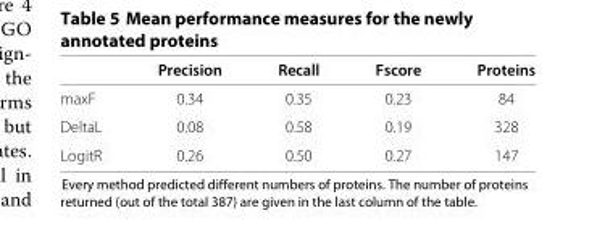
<table><thead><tr><td></td><td>Precision</td><td>Recall</td><td>Fscore</td><td>Proteins</td></tr></thead><tbody><tr><td>maxF</td><td>0.34</td><td>0.35</td><td>0.23</td><td>84</td></tr><tr><td>DeltaL</td><td>0.08</td><td>0.58</td><td>0.19</td><td>328</td></tr><tr><td>LogitR</td><td>0.26</td><td>0.50</td><td>0.27</td><td>147</td></tr></tbody></table>